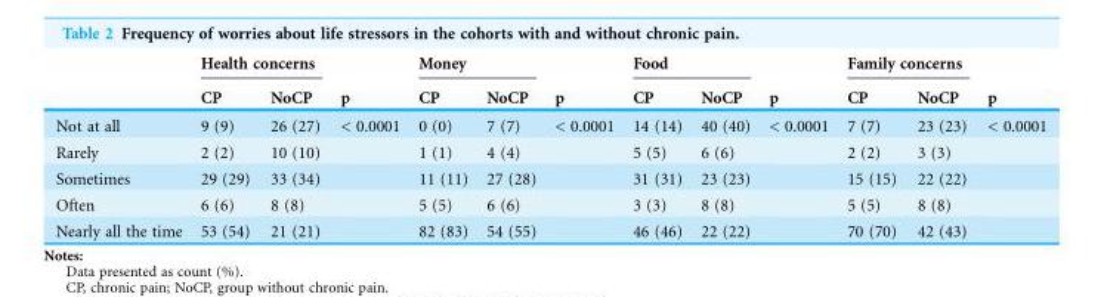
<table><thead><tr><td rowspan="2"></td><td colspan="2">Health concerns</td><td rowspan="2">p</td><td colspan="2">Money</td><td rowspan="2">p</td><td colspan="2">Food</td><td rowspan="2">p</td><td colspan="2">Family concerns</td><td rowspan="2">p</td></tr><tr><td>CP</td><td>NoCP</td><td>CP</td><td>NoCP</td><td>CP</td><td>NoCP</td><td>CP</td><td>NoCP</td></tr></thead><tbody><tr><td>Not at all</td><td>9 (9)</td><td>26 (27)</td><td>&lt; 0.0001</td><td>0 (0)</td><td>7 (7)</td><td>&lt; 0.0001</td><td>14 (14)</td><td>40 (40)</td><td>&lt; 0.0001</td><td>7 (7)</td><td>23 (23)</td><td>&lt; 0.0001</td></tr><tr><td>Rarely</td><td>2 (2)</td><td>10 (10)</td><td></td><td>1 (1)</td><td>4 (4)</td><td></td><td>5 (5)</td><td>6 (6)</td><td></td><td>2 (2)</td><td>3 (3)</td><td></td></tr><tr><td>Sometimes</td><td>29 (29)</td><td>33 (34)</td><td></td><td>11 (11)</td><td>27 (28)</td><td></td><td>31 (31)</td><td>23 (23)</td><td></td><td>15 (15)</td><td>22 (22)</td><td></td></tr><tr><td>Often</td><td>6 (6)</td><td>8 (8)</td><td></td><td>5 (5)</td><td>6 (6)</td><td></td><td>3 (3)</td><td>8 (8)</td><td></td><td>5 (5)</td><td>8 (8)</td><td></td></tr><tr><td>Nearly all the time</td><td>53 (54)</td><td>21 (21)</td><td></td><td>82 (83)</td><td>54 (55)</td><td></td><td>46 (46)</td><td>22 (22)</td><td></td><td>70 (70)</td><td>42 (43)</td><td></td></tr></tbody></table>